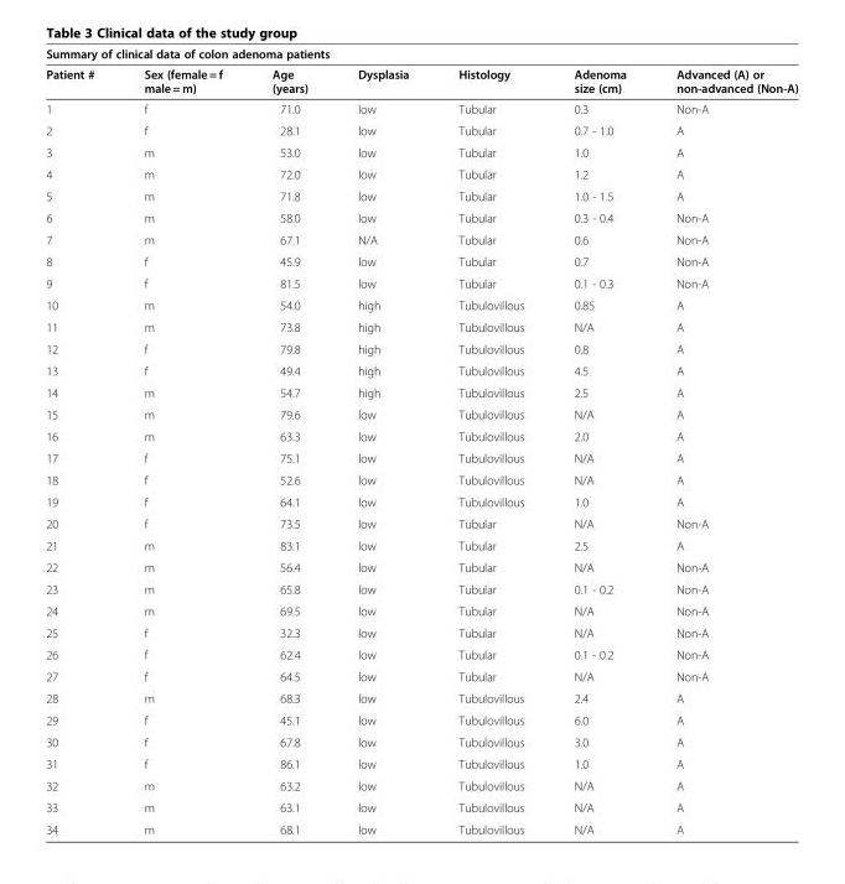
<table><thead><tr><td colspan="7">Summary of clinical data of colon adenoma patients</td></tr><tr><td>Patient #</td><td>Sex (female = f male = m)</td><td>Age (years)</td><td>Dysplasia</td><td>Histology</td><td>Adenoma size (cm)</td><td>Advanced (A) or non-advanced (Non-A)</td></tr></thead><tbody><tr><td>1</td><td>f</td><td>71.0</td><td>low</td><td>Tubular</td><td>0.3</td><td>Non-A</td></tr><tr><td>2</td><td>f</td><td>28.1</td><td>low</td><td>Tubular</td><td>0.7 - 1.0</td><td>A</td></tr><tr><td>3</td><td>m</td><td>53.0</td><td>low</td><td>Tubular</td><td>1.0</td><td>A</td></tr><tr><td>4</td><td>m</td><td>72.0</td><td>low</td><td>Tubular</td><td>1.2</td><td>A</td></tr><tr><td>5</td><td>m</td><td>71.8</td><td>low</td><td>Tubular</td><td>1.0 - 1.5</td><td>A</td></tr><tr><td>6</td><td>m</td><td>58.0</td><td>low</td><td>Tubular</td><td>0.3 - 0.4</td><td>Non-A</td></tr><tr><td>7</td><td>m</td><td>67.1</td><td>N/A</td><td>Tubular</td><td>0.6</td><td>Non-A</td></tr><tr><td>8</td><td>f</td><td>45.9</td><td>low</td><td>Tubular</td><td>0.7</td><td>Non-A</td></tr><tr><td>9</td><td>f</td><td>81.5</td><td>low</td><td>Tubular</td><td>0.1 - 0.3</td><td>Non-A</td></tr><tr><td>10</td><td>m</td><td>54.0</td><td>high</td><td>Tubulovillous</td><td>0.85</td><td>A</td></tr><tr><td>11</td><td>m</td><td>73.8</td><td>high</td><td>Tubulovillous</td><td>N/A</td><td>A</td></tr><tr><td>12</td><td>f</td><td>79.8</td><td>high</td><td>Tubulovillous</td><td>0.8</td><td>A</td></tr><tr><td>13</td><td>f</td><td>49.4</td><td>high</td><td>Tubulovillous</td><td>4.5</td><td>A</td></tr><tr><td>14</td><td>m</td><td>54.7</td><td>high</td><td>Tubulovillous</td><td>2.5</td><td>A</td></tr><tr><td>15</td><td>m</td><td>79.6</td><td>low</td><td>Tubulovillous</td><td>N/A</td><td>A</td></tr><tr><td>16</td><td>m</td><td>63.3</td><td>low</td><td>Tubulovillous</td><td>2.0</td><td>A</td></tr><tr><td>17</td><td>f</td><td>75.1</td><td>low</td><td>Tubulovillous</td><td>N/A</td><td>A</td></tr><tr><td>18</td><td>f</td><td>52.6</td><td>low</td><td>Tubulovillous</td><td>N/A</td><td>A</td></tr><tr><td>19</td><td>f</td><td>64.1</td><td>low</td><td>Tubulovillous</td><td>1.0</td><td>A</td></tr><tr><td>20</td><td>f</td><td>73.5</td><td>low</td><td>Tubular</td><td>N/A</td><td>Non-A</td></tr><tr><td>21</td><td>m</td><td>83.1</td><td>low</td><td>Tubular</td><td>2.5</td><td>A</td></tr><tr><td>22</td><td>m</td><td>56.4</td><td>low</td><td>Tubular</td><td>N/A</td><td>Non-A</td></tr><tr><td>23</td><td>m</td><td>65.8</td><td>low</td><td>Tubular</td><td>0.1 - 0.2</td><td>Non-A</td></tr><tr><td>24</td><td>m</td><td>69.5</td><td>low</td><td>Tubular</td><td>N/A</td><td>Non-A</td></tr><tr><td>25</td><td>f</td><td>32.3</td><td>low</td><td>Tubular</td><td>N/A</td><td>Non-A</td></tr><tr><td>26</td><td>f</td><td>62.4</td><td>low</td><td>Tubular</td><td>0.1 - 0.2</td><td>Non-A</td></tr><tr><td>27</td><td>f</td><td>64.5</td><td>low</td><td>Tubular</td><td>N/A</td><td>Non-A</td></tr><tr><td>28</td><td>m</td><td>68.3</td><td>low</td><td>Tubulovillous</td><td>2.4</td><td>A</td></tr><tr><td>29</td><td>f</td><td>45.1</td><td>low</td><td>Tubulovillous</td><td>6.0</td><td>A</td></tr><tr><td>30</td><td>f</td><td>67.8</td><td>low</td><td>Tubulovillous</td><td>3.0</td><td>A</td></tr><tr><td>31</td><td>f</td><td>86.1</td><td>low</td><td>Tubulovillous</td><td>1.0</td><td>A</td></tr><tr><td>32</td><td>m</td><td>63.2</td><td>low</td><td>Tubulovillous</td><td>N/A</td><td>A</td></tr><tr><td>33</td><td>m</td><td>63.1</td><td>low</td><td>Tubulovillous</td><td>N/A</td><td>A</td></tr><tr><td>34</td><td>m</td><td>68.1</td><td>low</td><td>Tubulovillous</td><td>N/A</td><td>A</td></tr></tbody></table>